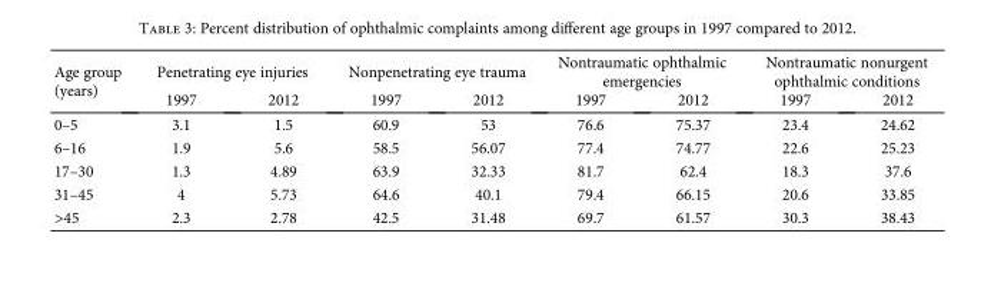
<table><thead><tr><td rowspan="2">Age group (years)</td><td colspan="2">Penetrating eye injuries</td><td colspan="2">Nonpenetrating eye trauma</td><td colspan="2">Nontraumatic ophthalmic emergencies</td><td colspan="2">Nontraumatic nonurgent ophthalmic conditions</td></tr><tr><td>1997</td><td>2012</td><td>1997</td><td>2012</td><td>1997</td><td>2012</td><td>1997</td><td>2012</td></tr></thead><tbody><tr><td>0–5</td><td>3.1</td><td>1.5</td><td>60.9</td><td>53</td><td>76.6</td><td>75.37</td><td>23.4</td><td>24.62</td></tr><tr><td>6–16</td><td>1.9</td><td>5.6</td><td>58.5</td><td>56.07</td><td>77.4</td><td>74.77</td><td>22.6</td><td>25.23</td></tr><tr><td>17–30</td><td>1.3</td><td>4.89</td><td>63.9</td><td>32.33</td><td>81.7</td><td>62.4</td><td>18.3</td><td>37.6</td></tr><tr><td>31–45</td><td>4</td><td>5.73</td><td>64.6</td><td>40.1</td><td>79.4</td><td>66.15</td><td>20.6</td><td>33.85</td></tr><tr><td>&gt;45</td><td>2.3</td><td>2.78</td><td>42.5</td><td>31.48</td><td>69.7</td><td>61.57</td><td>30.3</td><td>38.43</td></tr></tbody></table>